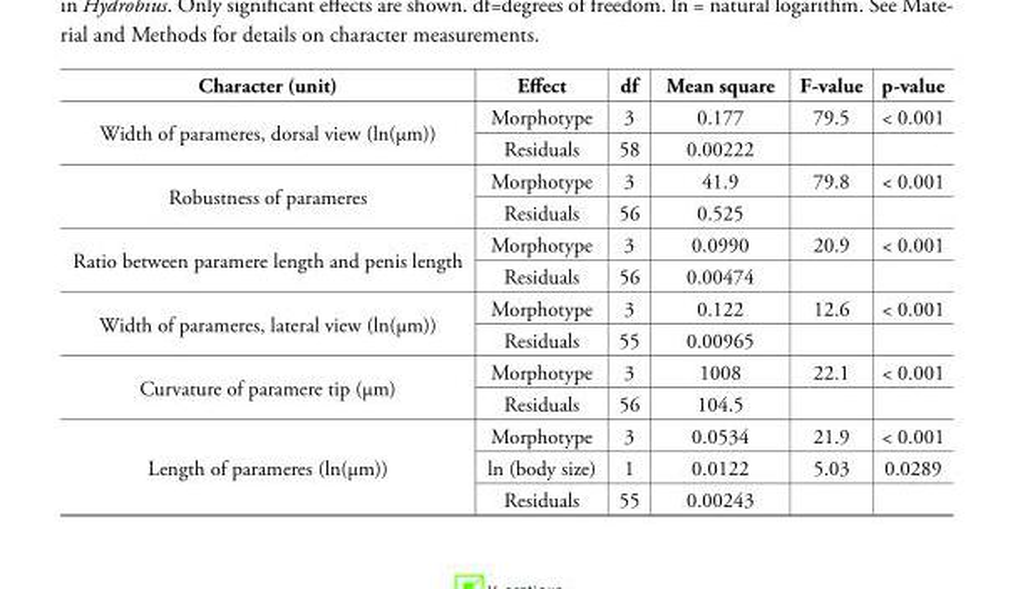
<table><thead><tr><td>Character (unit)</td><td>Effect</td><td>df</td><td>Mean square</td><td>F-value</td><td>p-value</td></tr></thead><tbody><tr><td rowspan="2">Width of parameres, dorsal view (ln(µm))</td><td>Morphotype</td><td>3</td><td>0.177</td><td>79.5</td><td>&lt; 0.001</td></tr><tr><td>Residuals</td><td>58</td><td>0.00222</td><td></td><td></td></tr><tr><td rowspan="2">Robustness of parameres</td><td>Morphotype</td><td>3</td><td>41.9</td><td>79.8</td><td>&lt; 0.001</td></tr><tr><td>Residuals</td><td>56</td><td>0.525</td><td></td><td></td></tr><tr><td rowspan="2">Ratio between paramere length and penis length</td><td>Morphotype</td><td>3</td><td>0.0990</td><td>20.9</td><td>&lt; 0.001</td></tr><tr><td>Residuals</td><td>56</td><td>0.00474</td><td></td><td></td></tr><tr><td rowspan="2">Width of parameres, lateral view (ln(µm))</td><td>Morphotype</td><td>3</td><td>0.122</td><td>12.6</td><td>&lt; 0.001</td></tr><tr><td>Residuals</td><td>55</td><td>0.00965</td><td></td><td></td></tr><tr><td rowspan="2">Curvature of paramere tip (µm)</td><td>Morphotype</td><td>3</td><td>1008</td><td>22.1</td><td>&lt; 0.001</td></tr><tr><td>Residuals</td><td>56</td><td>104.5</td><td></td><td></td></tr><tr><td rowspan="3">Length of parameres (ln(µm))</td><td>Morphotype</td><td>3</td><td>0.0534</td><td>21.9</td><td>&lt; 0.001</td></tr><tr><td>ln (body size)</td><td>1</td><td>0.0122</td><td>5.03</td><td>0.0289</td></tr><tr><td>Residuals</td><td>55</td><td>0.00243</td><td></td><td></td></tr></tbody></table>